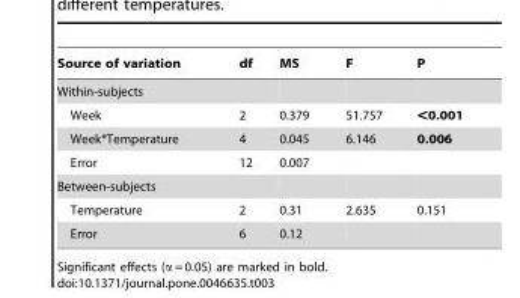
<table><thead><tr><td>Source of variation</td><td>df</td><td>MS</td><td>F</td><td>P</td></tr></thead><tbody><tr><td colspan="5">Within-subjects</td></tr><tr><td>Week</td><td>2</td><td>0.379</td><td>51.757</td><td>&lt;0.001</td></tr><tr><td>Week*Temperature</td><td>4</td><td>0.045</td><td>6.146</td><td>0.006</td></tr><tr><td>Error</td><td>12</td><td>0.007</td><td></td><td></td></tr><tr><td colspan="5">Between-subjects</td></tr><tr><td>Temperature</td><td>2</td><td>0.31</td><td>2.635</td><td>0.151</td></tr><tr><td>Error</td><td>6</td><td>0.12</td><td></td><td></td></tr></tbody></table>